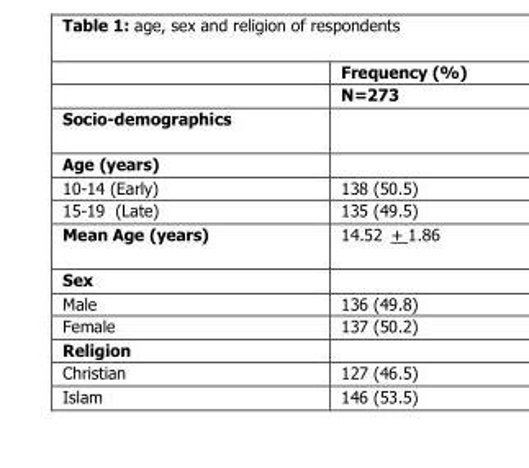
<table><thead><tr><td rowspan="2"></td><td rowspan="2">Frequency (%) N=273</td></tr><tr></tr></thead><tbody><tr><td colspan="2">Socio-demographics</td></tr><tr><td colspan="2">Age (years)</td></tr><tr><td>10-14 (Early)</td><td>138 (50.5)</td></tr><tr><td>15-19 (Late)</td><td>135 (49.5)</td></tr><tr><td>Mean Age (years)</td><td>14.52 + 1.86</td></tr><tr><td colspan="2">Sex</td></tr><tr><td>Male</td><td>136 (49.8)</td></tr><tr><td>Female</td><td>137 (50.2)</td></tr><tr><td colspan="2">Religion</td></tr><tr><td>Christian</td><td>127 (46.5)</td></tr><tr><td>Islam</td><td>146 (53.5)</td></tr></tbody></table>